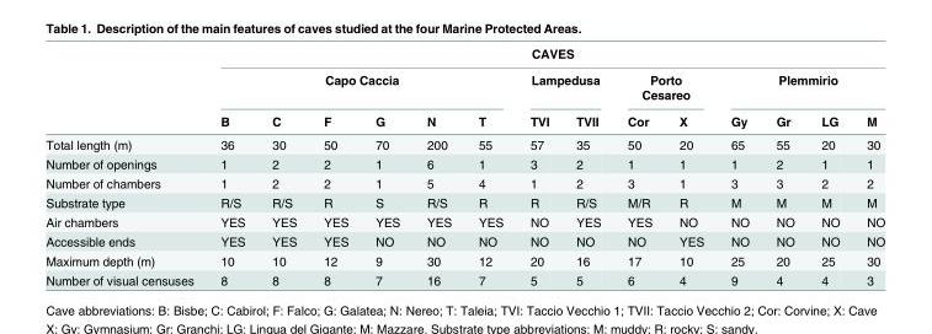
<table><thead><tr><td rowspan="3"></td><td colspan="14">CAVES</td></tr><tr><td colspan="6">Capo Caccia</td><td colspan="2">Lampedusa</td><td colspan="2">Porto Cesareo</td><td colspan="4">Plemmirio</td></tr><tr><td>B</td><td>C</td><td>F</td><td>G</td><td>N</td><td>T</td><td>TVI</td><td>TVII</td><td>Cor</td><td>X</td><td>Gy</td><td>Gr</td><td>LG</td><td>M</td></tr></thead><tbody><tr><td>Total length (m)</td><td>36</td><td>30</td><td>50</td><td>70</td><td>200</td><td>55</td><td>57</td><td>35</td><td>50</td><td>20</td><td>65</td><td>55</td><td>20</td><td>30</td></tr><tr><td>Number of openings</td><td>1</td><td>2</td><td>2</td><td>1</td><td>6</td><td>1</td><td>3</td><td>2</td><td>1</td><td>1</td><td>1</td><td>2</td><td>1</td><td>1</td></tr><tr><td>Number of chambers</td><td>1</td><td>2</td><td>2</td><td>1</td><td>5</td><td>4</td><td>1</td><td>2</td><td>3</td><td>1</td><td>3</td><td>3</td><td>2</td><td>2</td></tr><tr><td>Substrate type</td><td>R/S</td><td>R/S</td><td>R</td><td>S</td><td>R/S</td><td>R</td><td>R</td><td>R/S</td><td>M/R</td><td>R</td><td>M</td><td>M</td><td>M</td><td>M</td></tr><tr><td>Air chambers</td><td>YES</td><td>YES</td><td>YES</td><td>YES</td><td>YES</td><td>YES</td><td>NO</td><td>YES</td><td>YES</td><td>NO</td><td>NO</td><td>NO</td><td>NO</td><td>NO</td></tr><tr><td>Accessible ends</td><td>YES</td><td>YES</td><td>YES</td><td>NO</td><td>NO</td><td>NO</td><td>NO</td><td>NO</td><td>NO</td><td>YES</td><td>NO</td><td>NO</td><td>NO</td><td>NO</td></tr><tr><td>Maximum depth (m)</td><td>10</td><td>10</td><td>12</td><td>9</td><td>30</td><td>12</td><td>20</td><td>16</td><td>17</td><td>10</td><td>25</td><td>20</td><td>25</td><td>30</td></tr><tr><td>Number of visual censuses</td><td>8</td><td>8</td><td>8</td><td>7</td><td>16</td><td>7</td><td>5</td><td>5</td><td>6</td><td>4</td><td>9</td><td>4</td><td>4</td><td>3</td></tr></tbody></table>